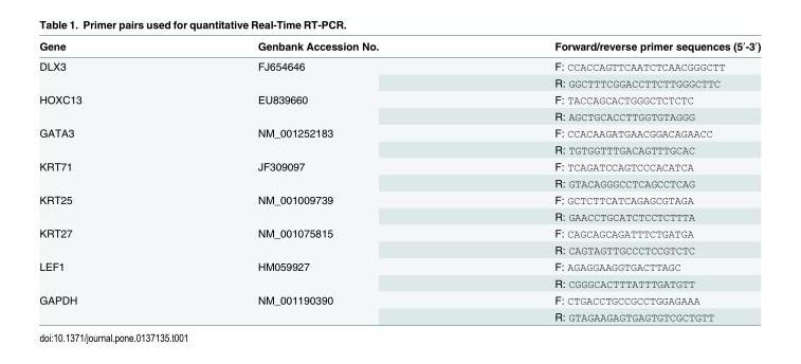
<table><thead><tr><td>Gene</td><td>Genbank Accession No.</td><td>Forward/reverse primer sequences (5′-3′)</td></tr></thead><tbody><tr><td rowspan="2">DLX3</td><td rowspan="2">FJ654646</td><td>F: CCACCAGTTCAATCTCAACGGGCTT</td></tr><tr><td>R: GGCTTTCGGACCTTCTTGGGCTTC</td></tr><tr><td rowspan="2">HOXC13</td><td rowspan="2">EU839660</td><td>F: TACCAGCACTGGGCTCTCTC</td></tr><tr><td>R: AGCTGCACCTTGGTGTAGGG</td></tr><tr><td rowspan="2">GATA3</td><td rowspan="2">NM_001252183</td><td>F: CCACAAGATGAACGGACAGAACC</td></tr><tr><td>R: TGTGGTTTGACAGTTTGCAC</td></tr><tr><td rowspan="2">KRT71</td><td rowspan="2">JF309097</td><td>F: TCAGATCCAGTCCCACATCA</td></tr><tr><td>R: GTACAGGGCCTCAGCCTCAG</td></tr><tr><td rowspan="2">KRT25</td><td rowspan="2">NM_001009739</td><td>F: GCTCTTCATCAGAGCGTAGA</td></tr><tr><td>R: GAACCTGCATCTCCTCTTTA</td></tr><tr><td rowspan="2">KRT27</td><td rowspan="2">NM_001075815</td><td>F: CAGCAGCAGATTTCTGATGA</td></tr><tr><td>R: CAGTAGTTGCCCTCCGTCTC</td></tr><tr><td rowspan="2">LEF1</td><td rowspan="2">HM059927</td><td>F: AGAGGAAGGTGACTTAGC</td></tr><tr><td>R: CGGGCACTTTATTTGATGTT</td></tr><tr><td rowspan="2">GAPDH</td><td rowspan="2">NM_001190390</td><td>F: CTGACCTGCCGCCTGGAGAAA</td></tr><tr><td>R: GTAGAAGAGTGAGTGTCGCTGTT</td></tr></tbody></table>